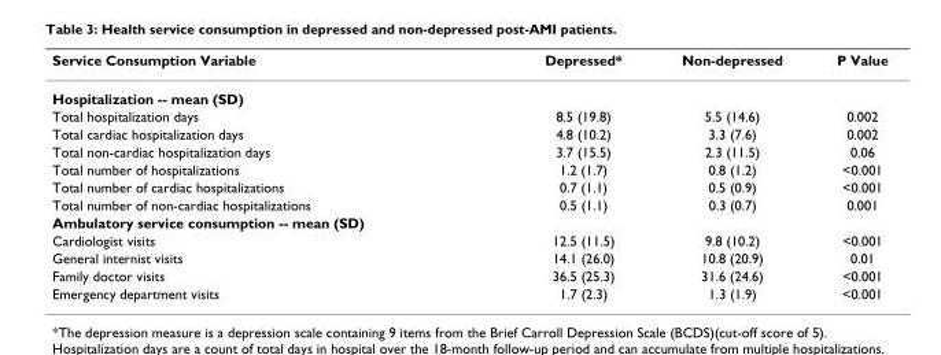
<table><thead><tr><td>Service Consumption Variable</td><td>Depressed*</td><td>Non-depressed</td><td>P Value</td></tr></thead><tbody><tr><td colspan="4">Hospitalization -- mean (SD)</td></tr><tr><td>Total hospitalization days</td><td>8.5 (19.8)</td><td>5.5 (14.6)</td><td>0.002</td></tr><tr><td>Total cardiac hospitalization days</td><td>4.8 (10.2)</td><td>3.3 (7.6)</td><td>0.002</td></tr><tr><td>Total non-cardiac hospitalization days</td><td>3.7 (15.5)</td><td>2.3 (11.5)</td><td>0.06</td></tr><tr><td>Total number of hospitalizations</td><td>1.2 (1.7)</td><td>0.8 (1.2)</td><td>&lt;0.001</td></tr><tr><td>Total number of cardiac hospitalizations</td><td>0.7 (1.1)</td><td>0.5 (0.9)</td><td>&lt;0.001</td></tr><tr><td>Total number of non-cardiac hospitalizations</td><td>0.5 (1.1)</td><td>0.3 (0.7)</td><td>0.001</td></tr><tr><td colspan="4">Ambulatory service consumption -- mean (SD)</td></tr><tr><td>Cardiologist visits</td><td>12.5 (11.5)</td><td>9.8 (10.2)</td><td>&lt;0.001</td></tr><tr><td>General internist visits</td><td>14.1 (26.0)</td><td>10.8 (20.9)</td><td>0.01</td></tr><tr><td>Family doctor visits</td><td>36.5 (25.3)</td><td>31.6 (24.6)</td><td>&lt;0.001</td></tr><tr><td>Emergency department visits</td><td>1.7 (2.3)</td><td>1.3 (1.9)</td><td>&lt;0.001</td></tr></tbody></table>